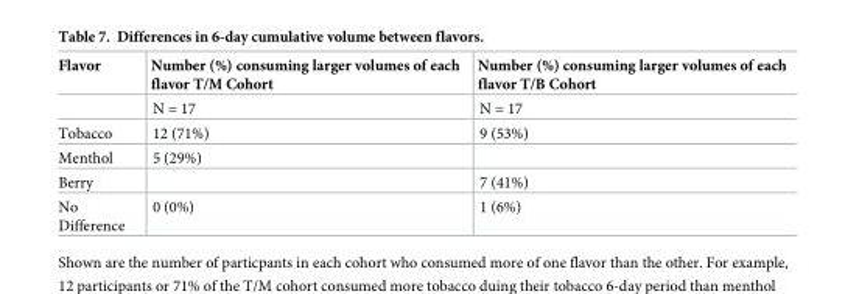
<table><thead><tr><td>Flavor</td><td>Number (%) consuming larger volumes of each flavor T/M Cohort</td><td>Number (%) consuming larger volumes of each flavor T/B Cohort</td></tr></thead><tbody><tr><td></td><td>N = 17</td><td>N = 17</td></tr><tr><td>Tobacco</td><td>12 (71%)</td><td>9 (53%)</td></tr><tr><td>Menthol</td><td>5 (29%)</td><td></td></tr><tr><td>Berry</td><td></td><td>7 (41%)</td></tr><tr><td>No Difference</td><td>0 (0%)</td><td>1 (6%)</td></tr></tbody></table>